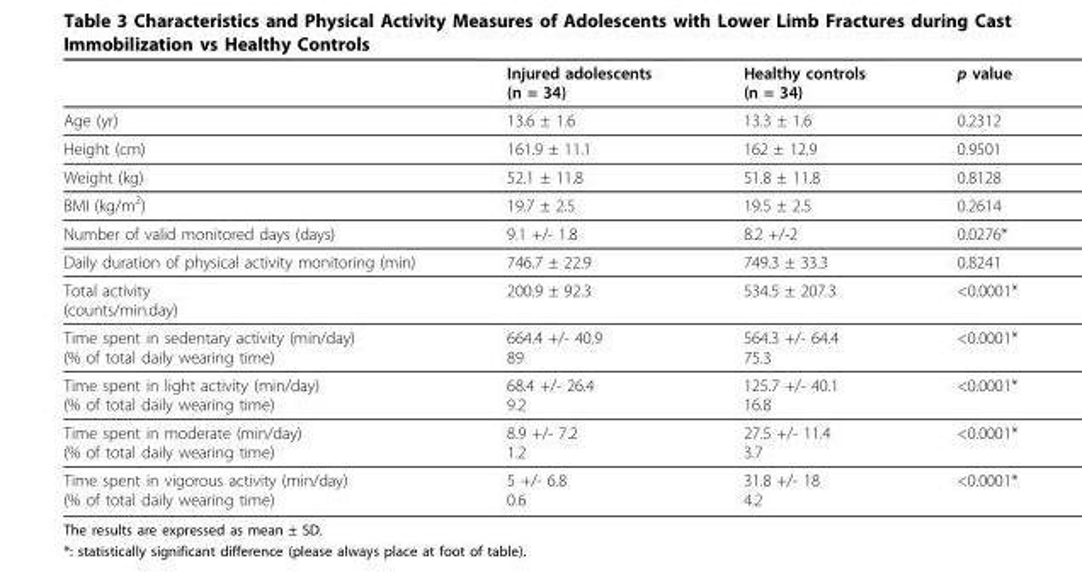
<table><thead><tr><td></td><td>Injured adolescents (n = 34)</td><td>Healthy controls (n = 34)</td><td>p value</td></tr></thead><tbody><tr><td>Age (yr)</td><td>13.6 ± 1.6</td><td>13.3 ± 1.6</td><td>0.2312</td></tr><tr><td>Height (cm)</td><td>161.9 ± 11.1</td><td>162 ± 12.9</td><td>0.9501</td></tr><tr><td>Weight (kg)</td><td>52.1 ± 11.8</td><td>51.8 ± 11.8</td><td>0.8128</td></tr><tr><td>BMI (kg/m<sup>2</sup>)</td><td>19.7 ± 2.5</td><td>19.5 ± 2.5</td><td>0.2614</td></tr><tr><td>Number of valid monitored days (days)</td><td>9.1 +/- 1.8</td><td>8.2 +/-2</td><td>0.0276*</td></tr><tr><td>Daily duration of physical activity monitoring (min)</td><td>746.7 ± 22.9</td><td>749.3 ± 33.3</td><td>0.8241</td></tr><tr><td>Total activity (counts/min.day)</td><td>200.9 ± 92.3</td><td>534.5 ± 207.3</td><td>&lt;0.0001*</td></tr><tr><td>Time spent in sedentary activity (min/day) (% of total daily wearing time)</td><td>664.4 +/- 40.9 89</td><td>564.3 +/- 64.4 75.3</td><td>&lt;0.0001*</td></tr><tr><td>Time spent in light activity (min/day) (% of total daily wearing time)</td><td>68.4 +/- 26.4 9.2</td><td>125.7 +/- 40.1 16.8</td><td>&lt;0.0001*</td></tr><tr><td>Time spent in moderate (min/day) (% of total daily wearing time)</td><td>8.9 +/- 7.2 1.2</td><td>27.5 +/- 11.4 3.7</td><td>&lt;0.0001*</td></tr><tr><td>Time spent in vigorous activity (min/day) (% of total daily wearing time)</td><td>5 +/- 6.8 0.6</td><td>31.8 +/- 18 4.2</td><td>&lt;0.0001*</td></tr></tbody></table>